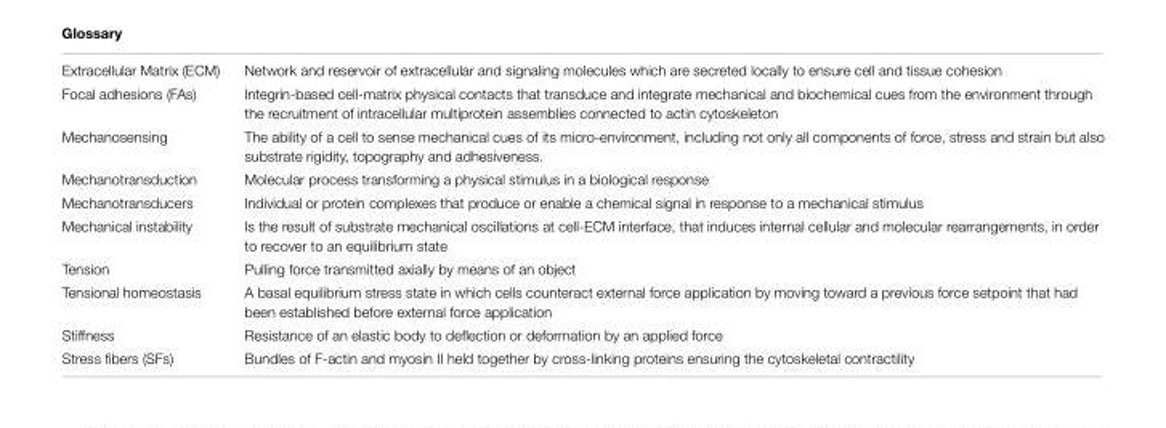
<table><tbody><tr><td>Extracellular Matrix (ECM)</td><td>Network and reservoir of extracellular and signaling molecules which are secreted locally to ensure cell and tissue cohesion</td></tr><tr><td>Focal adhesions (FAs)</td><td>Integrin-based cell-matrix physical contacts that transduce and integrate mechanical and biochemical cues from the environment through the recruitment of intracellular multiprotein assemblies connected to actin cytoskeleton</td></tr><tr><td>Mechanosensing</td><td>The ability of a cell to sense mechanical cues of its micro-environment, including not only all components of force, stress and strain but also substrate rigidity, topography and adhesiveness.</td></tr><tr><td>Mechanotransduction</td><td>Molecular process transforming a physical stimulus in a biological response</td></tr><tr><td>Mechanotransducers</td><td>Individual or protein complexes that produce or enable a chemical signal in response to a mechanical stimulus</td></tr><tr><td>Mechanical instability</td><td>Is the result of substrate mechanical oscillations at cell-ECM interface, that induces internal cellular and molecular rearrangements, in order to recover to an equilibrium state</td></tr><tr><td>Tension</td><td>Pulling force transmitted axially by means of an object</td></tr><tr><td>Tensional homeostasis</td><td>A basal equilibrium stress state in which cells counteract external force application by moving toward a previous force setpoint that had been established before external force application</td></tr><tr><td>Stiffness</td><td>Resistance of an elastic body to deflection or deformation by an applied force</td></tr><tr><td>Stress fibers (SFs)</td><td>Bundles of F-actin and myosin II held together by cross-linking proteins ensuring the cytoskeletal contractility</td></tr></tbody></table>